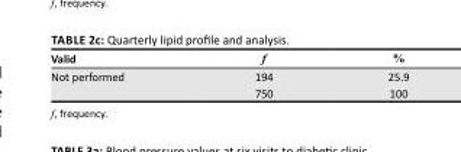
<table><thead><tr><td>Valid</td><td>f</td><td>%</td></tr></thead><tbody><tr><td rowspan="2">Not performed</td><td>194</td><td>25.9</td></tr><tr><td>750</td><td>100</td></tr></tbody></table>